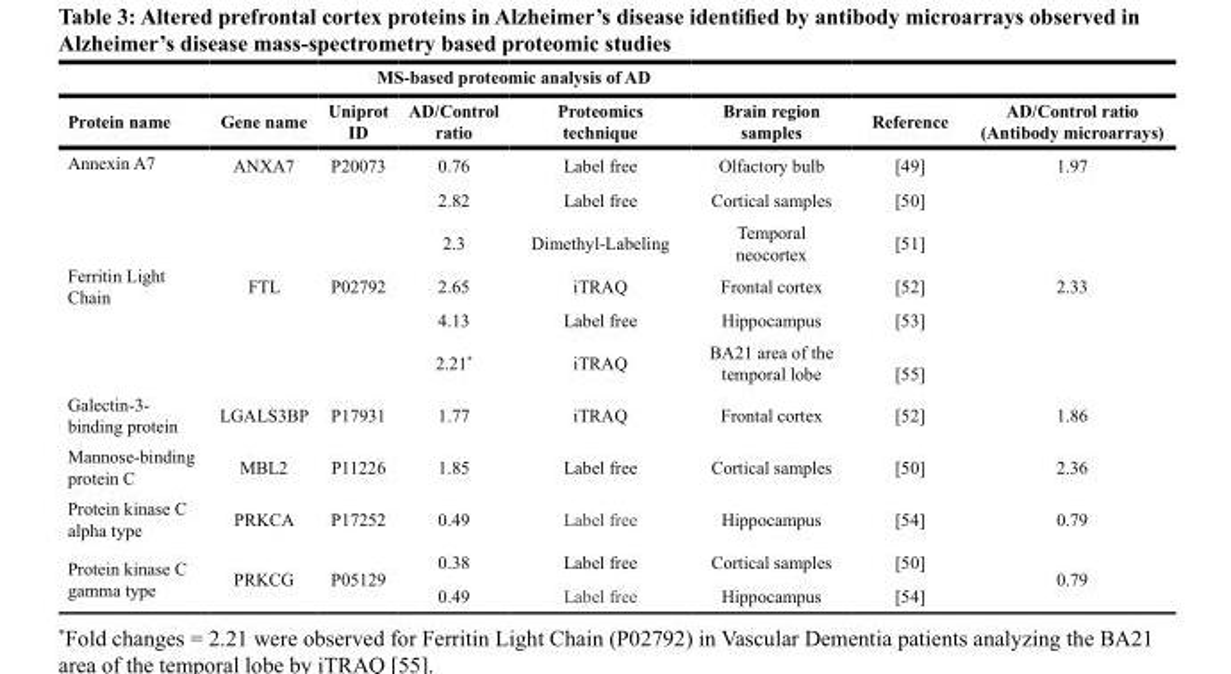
<table><thead><tr><td colspan="8">MS-based proteomic analysis of AD</td></tr><tr><td>Protein name</td><td>Gene name</td><td>Uniprot ID</td><td>AD/Control ratio</td><td>Proteomics technique</td><td>Brain region samples</td><td>Reference</td><td>AD/Control ratio (Antibody microarrays)</td></tr></thead><tbody><tr><td>Annexin A7</td><td>ANXA7</td><td>P20073</td><td>0.76</td><td>Label free</td><td>Olfactory bulb</td><td>[49]</td><td>1.97</td></tr><tr><td rowspan="5">Ferritin Light Chain</td><td rowspan="5">FTL</td><td rowspan="5">P02792</td><td>2.82</td><td>Label free</td><td>Cortical samples</td><td>[50]</td><td rowspan="5">2.33</td></tr><tr><td>2.3</td><td>Dimethyl-Labeling</td><td>Temporal neocortex</td><td>[51]</td></tr><tr><td>2.65</td><td>iTRAQ</td><td>Frontal cortex</td><td>[52]</td></tr><tr><td>4.13</td><td>Label free</td><td>Hippocampus</td><td>[53]</td></tr><tr><td>2.21*</td><td>iTRAQ</td><td>BA21 area of the temporal lobe</td><td>[55]</td></tr><tr><td>Galectin-3- binding protein</td><td>LGALS3BP</td><td>P17931</td><td>1.77</td><td>iTRAQ</td><td>Frontal cortex</td><td>[52]</td><td>1.86</td></tr><tr><td>Mannose-binding protein C</td><td>MBL2</td><td>P11226</td><td>1.85</td><td>Label free</td><td>Cortical samples</td><td>[50]</td><td>2.36</td></tr><tr><td>Protein kinase C alpha type</td><td>PRKCA</td><td>P17252</td><td>0.49</td><td>Label free</td><td>Hippocampus</td><td>[54]</td><td>0.79</td></tr><tr><td rowspan="2">Protein kinase C gamma type</td><td rowspan="2">PRKCG</td><td rowspan="2">P05129</td><td>0.38</td><td>Label free</td><td>Cortical samples</td><td>[50]</td><td rowspan="2">0.79</td></tr><tr><td>0.49</td><td>Label free</td><td>Hippocampus</td><td>[54]</td></tr></tbody></table>